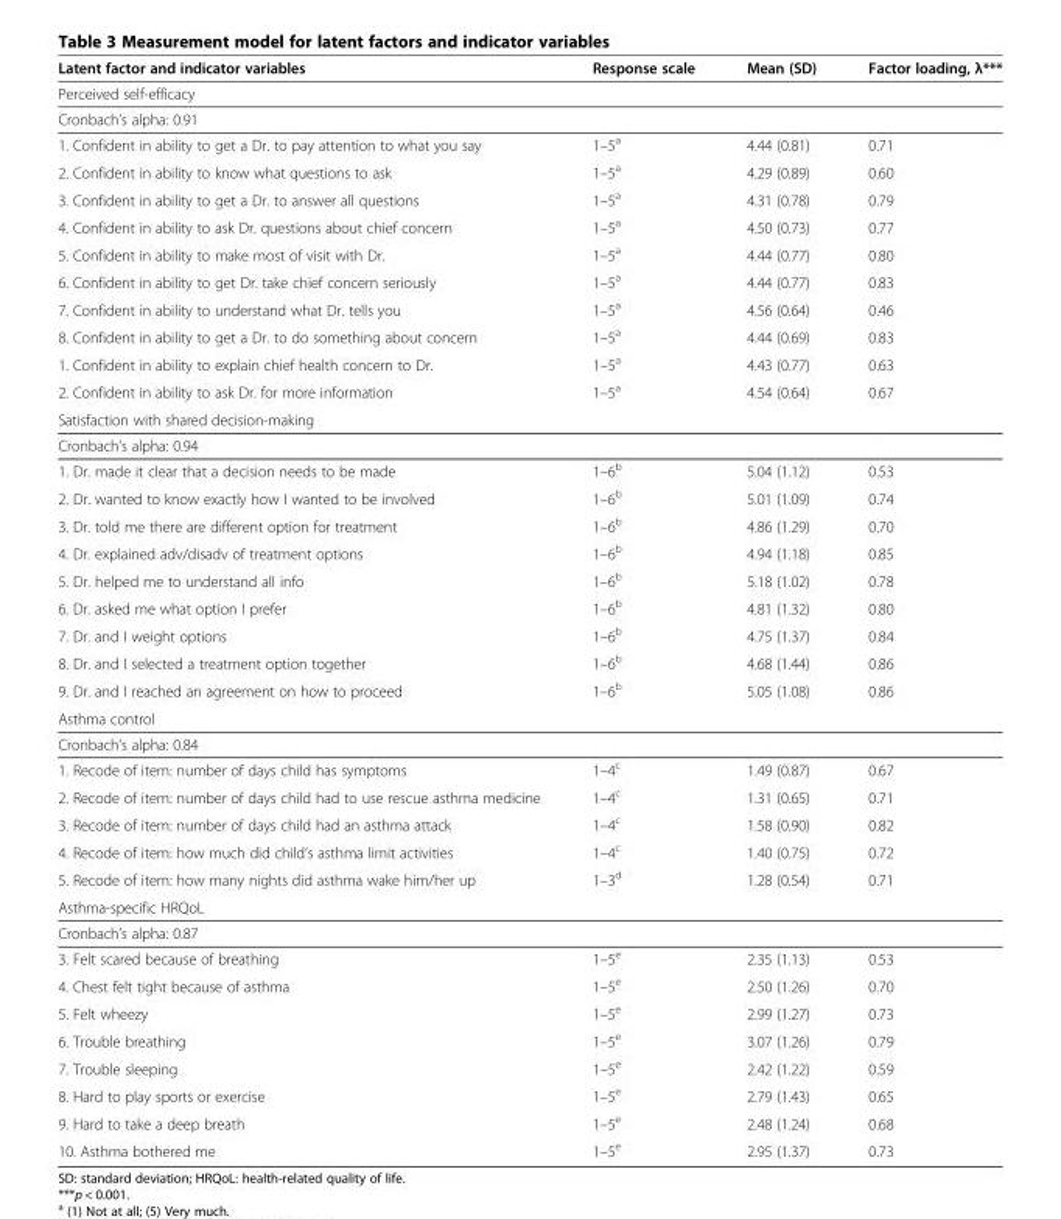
<table><thead><tr><td>Latent factor and indicator variables</td><td>Response scale</td><td>Mean (SD)</td><td>Factor loading, λ***</td></tr></thead><tbody><tr><td colspan="4">Perceived self-efficacy</td></tr><tr><td colspan="4">Cronbach’s alpha: 0.91</td></tr><tr><td>1. Confident in ability to get a Dr. to pay attention to what you say</td><td>1–5<sup>a</sup></td><td>4.44 (0.81)</td><td>0.71</td></tr><tr><td>2. Confident in ability to know what questions to ask</td><td>1–5<sup>a</sup></td><td>4.29 (0.89)</td><td>0.60</td></tr><tr><td>3. Confident in ability to get a Dr. to answer all questions</td><td>1–5<sup>a</sup></td><td>4.31 (0.78)</td><td>0.79</td></tr><tr><td>4. Confident in ability to ask Dr. questions about chief concern</td><td>1–5<sup>a</sup></td><td>4.50 (0.73)</td><td>0.77</td></tr><tr><td>5. Confident in ability to make most of visit with Dr.</td><td>1–5<sup>a</sup></td><td>4.44 (0.77)</td><td>0.80</td></tr><tr><td>6. Confident in ability to get Dr. take chief concern seriously</td><td>1–5<sup>a</sup></td><td>4.44 (0.77)</td><td>0.83</td></tr><tr><td>7. Confident in ability to understand what Dr. tells you</td><td>1–5<sup>a</sup></td><td>4.56 (0.64)</td><td>0.46</td></tr><tr><td>8. Confident in ability to get a Dr. to do something about concern</td><td>1–5<sup>a</sup></td><td>4.44 (0.69)</td><td>0.83</td></tr><tr><td>1. Confident in ability to explain chief health concern to Dr.</td><td>1–5<sup>a</sup></td><td>4.43 (0.77)</td><td>0.63</td></tr><tr><td>2. Confident in ability to ask Dr. for more information</td><td>1–5<sup>a</sup></td><td>4.54 (0.64)</td><td>0.67</td></tr><tr><td colspan="4">Satisfaction with shared decision-making</td></tr><tr><td colspan="4">Cronbach’s alpha: 0.94</td></tr><tr><td>1. Dr. made it clear that a decision needs to be made</td><td>1–6<sup>b</sup></td><td>5.04 (1.12)</td><td>0.53</td></tr><tr><td>2. Dr. wanted to know exactly how I wanted to be involved</td><td>1–6<sup>b</sup></td><td>5.01 (1.09)</td><td>0.74</td></tr><tr><td>3. Dr. told me there are different option for treatment</td><td>1–6<sup>b</sup></td><td>4.86 (1.29)</td><td>0.70</td></tr><tr><td>4. Dr. explained adv/disadv of treatment options</td><td>1–6<sup>b</sup></td><td>4.94 (1.18)</td><td>0.85</td></tr><tr><td>5. Dr. helped me to understand all info</td><td>1–6<sup>b</sup></td><td>5.18 (1.02)</td><td>0.78</td></tr><tr><td>6. Dr. asked me what option I prefer</td><td>1–6<sup>b</sup></td><td>4.81 (1.32)</td><td>0.80</td></tr><tr><td>7. Dr. and I weight options</td><td>1–6<sup>b</sup></td><td>4.75 (1.37)</td><td>0.84</td></tr><tr><td>8. Dr. and I selected a treatment option together</td><td>1–6<sup>b</sup></td><td>4.68 (1.44)</td><td>0.86</td></tr><tr><td>9. Dr. and I reached an agreement on how to proceed</td><td>1–6<sup>b</sup></td><td>5.05 (1.08)</td><td>0.86</td></tr><tr><td colspan="4">Asthma control</td></tr><tr><td colspan="4">Cronbach’s alpha: 0.84</td></tr><tr><td>1. Recode of item: number of days child has symptoms</td><td>1–4<sup>c</sup></td><td>1.49 (0.87)</td><td>0.67</td></tr><tr><td>2. Recode of item: number of days child had to use rescue asthma medicine</td><td>1–4<sup>c</sup></td><td>1.31 (0.65)</td><td>0.71</td></tr><tr><td>3. Recode of item: number of days child had an asthma attack</td><td>1–4<sup>c</sup></td><td>1.58 (0.90)</td><td>0.82</td></tr><tr><td>4. Recode of item: how much did child’s asthma limit activities</td><td>1–4<sup>c</sup></td><td>1.40 (0.75)</td><td>0.72</td></tr><tr><td>5. Recode of item: how many nights did asthma wake him/her up</td><td>1–3<sup>d</sup></td><td>1.28 (0.54)</td><td>0.71</td></tr><tr><td colspan="4">Asthma-specific HRQoL</td></tr><tr><td colspan="4">Cronbach’s alpha: 0.87</td></tr><tr><td>3. Felt scared because of breathing</td><td>1–5<sup>e</sup></td><td>2.35 (1.13)</td><td>0.53</td></tr><tr><td>4. Chest felt tight because of asthma</td><td>1–5<sup>e</sup></td><td>2.50 (1.26)</td><td>0.70</td></tr><tr><td>5. Felt wheezy</td><td>1–5<sup>e</sup></td><td>2.99 (1.27)</td><td>0.73</td></tr><tr><td>6. Trouble breathing</td><td>1–5<sup>e</sup></td><td>3.07 (1.26)</td><td>0.79</td></tr><tr><td>7. Trouble sleeping</td><td>1–5<sup>e</sup></td><td>2.42 (1.22)</td><td>0.59</td></tr><tr><td>8. Hard to play sports or exercise</td><td>1–5<sup>e</sup></td><td>2.79 (1.43)</td><td>0.65</td></tr><tr><td>9. Hard to take a deep breath</td><td>1–5<sup>e</sup></td><td>2.48 (1.24)</td><td>0.68</td></tr><tr><td>10. Asthma bothered me</td><td>1–5<sup>e</sup></td><td>2.95 (1.37)</td><td>0.73</td></tr></tbody></table>